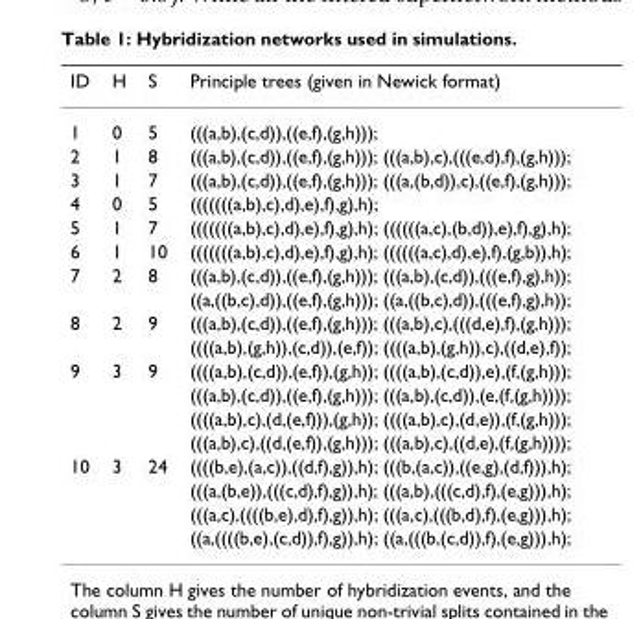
<table><thead><tr><td>ID</td><td>H</td><td>S</td><td>Principle trees (given in Newick format)</td></tr></thead><tbody><tr><td>1</td><td>0</td><td>5</td><td>(((a,b),(c,d)),((e,f),(g,h)));</td></tr><tr><td>2</td><td>1</td><td>8</td><td>(((a,b),(c,d)),((e,f),(g,h))); (((a,b),c),(((e,d),f),(g,h)));</td></tr><tr><td>3</td><td>1</td><td>7</td><td>(((a,b),(c,d)),((e,f),(g,h))); (((a,(b,d)),c),((e,f),(g,h)));</td></tr><tr><td>4</td><td>0</td><td>5</td><td>(((((((a,b),c),d),e),f),g),h);</td></tr><tr><td>5</td><td>1</td><td>7</td><td>(((((((a,b),c),d),e),f),g),h); ((((((a,c),(b,d)),e),f),g),h);</td></tr><tr><td>6</td><td>1</td><td>10</td><td>(((((((a,b),c),d),e),f),g),h); ((((((a,c),d),e),f),(g,b)),h);</td></tr><tr><td rowspan="2">7</td><td>2</td><td>8</td><td>(((a,b),(c,d)),((e,f),(g,h))); (((a,b),(c,d)),(((e,f),g),h));</td></tr><tr><td></td><td></td><td>((a,((b,c),d)),((e,f),(g,h))); ((a,((b,c),d)),(((e,f),g),h));</td></tr><tr><td rowspan="2">8</td><td>2</td><td>9</td><td>(((a,b),(c,d)),((e,f),(g,h))); (((a,b),c),(((d,e),f),(g,h)));</td></tr><tr><td></td><td></td><td>((((a,b),(g,h)),(c,d)),(e,f)); ((((a,b),(g,h)),c),((d,e),f));</td></tr><tr><td rowspan="4">9</td><td>3</td><td>9</td><td>((((a,b),(c,d)),(e,f)),(g,h)); ((((a,b),(c,d)),e),(f,(g,h)));</td></tr><tr><td></td><td></td><td>(((a,b),(c,d)),((e,f),(g,h))); (((a,b),(c,d)),(e,(f,(g,h))));</td></tr><tr><td></td><td></td><td>((((a,b),c),(d,(e,f))),(g,h)); ((((a,b),c),(d,e)),(f,(g,h)));</td></tr><tr><td></td><td></td><td>(((a,b),c),((d,(e,f)),(g,h))); (((a,b),c),((d,e),(f,(g,h))));</td></tr><tr><td rowspan="4">10</td><td>3</td><td>24</td><td>((((b,e),(a,c)),((d,f),g)),h); (((b,(a,c)),((e,g),(d,f))),h);</td></tr><tr><td></td><td></td><td>(((a,(b,e)),(((c,d),f),g)),h); (((a,b),(((c,d),f),(e,g))),h);</td></tr><tr><td></td><td></td><td>(((a,c),((((b,e),d),f),g)),h); (((a,c),(((b,d),f),(e,g))),h);</td></tr><tr><td></td><td></td><td>((a,((((b,e),(c,d)),f),g)),h); ((a,(((b,(c,d)),f),(e,g))),h);</td></tr></tbody></table>